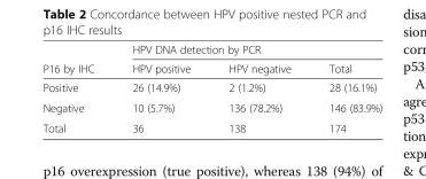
<table><thead><tr><td rowspan="2">P16 by IHC</td><td colspan="3">HPV DNA detection by PCR</td></tr><tr><td>HPV positive</td><td>HPV negative</td><td>Total</td></tr></thead><tbody><tr><td>Positive</td><td>26 (14.9%)</td><td>2 (1.2%)</td><td>28 (16.1%)</td></tr><tr><td>Negative</td><td>10 (5.7%)</td><td>136 (78.2%)</td><td>146 (83.9%)</td></tr><tr><td>Total</td><td>36</td><td>138</td><td>174</td></tr></tbody></table>